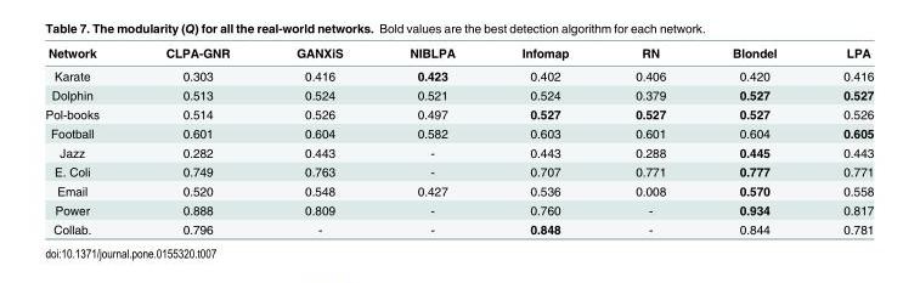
<table><thead><tr><td>Network</td><td>CLPA-GNR</td><td>GANXiS</td><td>NIBLPA</td><td>Infomap</td><td>RN</td><td>Blondel</td><td>LPA</td></tr></thead><tbody><tr><td>Karate</td><td>0.303</td><td>0.416</td><td>0.423</td><td>0.402</td><td>0.406</td><td>0.420</td><td>0.416</td></tr><tr><td>Dolphin</td><td>0.513</td><td>0.524</td><td>0.521</td><td>0.524</td><td>0.379</td><td>0.527</td><td>0.527</td></tr><tr><td>Pol-books</td><td>0.514</td><td>0.526</td><td>0.497</td><td>0.527</td><td>0.527</td><td>0.527</td><td>0.526</td></tr><tr><td>Football</td><td>0.601</td><td>0.604</td><td>0.582</td><td>0.603</td><td>0.601</td><td>0.604</td><td>0.605</td></tr><tr><td>Jazz</td><td>0.282</td><td>0.443</td><td>-</td><td>0.443</td><td>0.288</td><td>0.445</td><td>0.443</td></tr><tr><td>E. Coli</td><td>0.749</td><td>0.763</td><td>-</td><td>0.707</td><td>0.771</td><td>0.777</td><td>0.771</td></tr><tr><td>Email</td><td>0.520</td><td>0.548</td><td>0.427</td><td>0.536</td><td>0.008</td><td>0.570</td><td>0.558</td></tr><tr><td>Power</td><td>0.888</td><td>0.809</td><td>-</td><td>0.760</td><td>-</td><td>0.934</td><td>0.817</td></tr><tr><td>Collab.</td><td>0.796</td><td>-</td><td>-</td><td>0.848</td><td>-</td><td>0.844</td><td>0.781</td></tr></tbody></table>